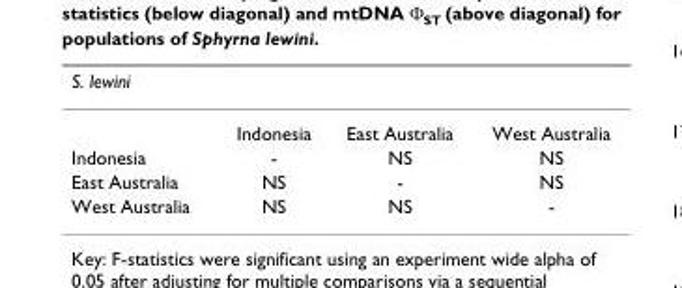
<table><thead><tr><td colspan="4">S. lewini</td></tr><tr><td></td><td>Indonesia</td><td>East Australia</td><td>West Australia</td></tr></thead><tbody><tr><td>Indonesia</td><td>-</td><td>NS</td><td>NS</td></tr><tr><td>East Australia</td><td>NS</td><td>-</td><td>NS</td></tr><tr><td>West Australia</td><td>NS</td><td>NS</td><td>-</td></tr></tbody></table>